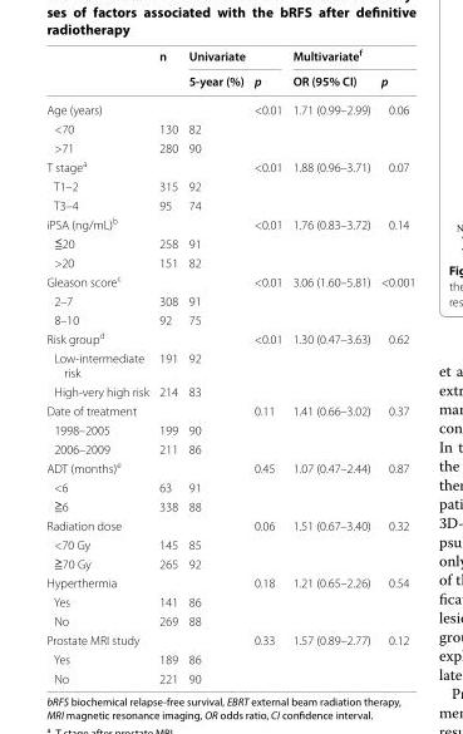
<table><thead><tr><td rowspan="2"></td><td rowspan="2">n</td><td colspan="2">Univariate</td><td colspan="2">Multivariate<sup>f</sup></td></tr><tr><td>5‑year (%)</td><td>p</td><td>OR (95% CI)</td><td>p</td></tr></thead><tbody><tr><td>Age (years)</td><td></td><td></td><td>&lt;0.01</td><td>1.71 (0.99–2.99)</td><td>0.06</td></tr><tr><td>&lt;70</td><td>130</td><td>82</td><td></td><td></td><td></td></tr><tr><td>&gt;71</td><td>280</td><td>90</td><td></td><td></td><td></td></tr><tr><td>T stage<sup>a</sup></td><td></td><td></td><td>&lt;0.01</td><td>1.88 (0.96–3.71)</td><td>0.07</td></tr><tr><td>T1–2</td><td>315</td><td>92</td><td></td><td></td><td></td></tr><tr><td>T3–4</td><td>95</td><td>74</td><td></td><td></td><td></td></tr><tr><td>iPSA (ng/mL)<sup>b</sup></td><td></td><td></td><td>&lt;0.01</td><td>1.76 (0.83–3.72)</td><td>0.14</td></tr><tr><td>≦20</td><td>258</td><td>91</td><td></td><td></td><td></td></tr><tr><td>&gt;20</td><td>151</td><td>82</td><td></td><td></td><td></td></tr><tr><td>Gleason score<sup>c</sup></td><td></td><td></td><td>&lt;0.01</td><td>3.06 (1.60–5.81)</td><td>&lt;0.001</td></tr><tr><td>2–7</td><td>308</td><td>91</td><td></td><td></td><td></td></tr><tr><td>8–10</td><td>92</td><td>75</td><td></td><td></td><td></td></tr><tr><td>Risk group<sup>d</sup></td><td></td><td></td><td>&lt;0.01</td><td>1.30 (0.47–3.63)</td><td>0.62</td></tr><tr><td>Low-intermediate risk</td><td>191</td><td>92</td><td></td><td></td><td></td></tr><tr><td>High-very high risk</td><td>214</td><td>83</td><td></td><td></td><td></td></tr><tr><td>Date of treatment</td><td></td><td></td><td>0.11</td><td>1.41 (0.66–3.02)</td><td>0.37</td></tr><tr><td>1998–2005</td><td>199</td><td>90</td><td></td><td></td><td></td></tr><tr><td>2006–2009</td><td>211</td><td>86</td><td></td><td></td><td></td></tr><tr><td>ADT (months)<sup>e</sup></td><td></td><td></td><td>0.45</td><td>1.07 (0.47–2.44)</td><td>0.87</td></tr><tr><td>&lt;6</td><td>63</td><td>91</td><td></td><td></td><td></td></tr><tr><td>≧6</td><td>338</td><td>88</td><td></td><td></td><td></td></tr><tr><td>Radiation dose</td><td></td><td></td><td>0.06</td><td>1.51 (0.67–3.40)</td><td>0.32</td></tr><tr><td>&lt;70 Gy</td><td>145</td><td>85</td><td></td><td></td><td></td></tr><tr><td>≧70 Gy</td><td>265</td><td>92</td><td></td><td></td><td></td></tr><tr><td>Hyperthermia</td><td></td><td></td><td>0.18</td><td>1.21 (0.65–2.26)</td><td>0.54</td></tr><tr><td>Yes</td><td>141</td><td>86</td><td></td><td></td><td></td></tr><tr><td>No</td><td>269</td><td>88</td><td></td><td></td><td></td></tr><tr><td>Prostate MRI study</td><td></td><td></td><td>0.33</td><td>1.57 (0.89–2.77)</td><td>0.12</td></tr><tr><td>Yes</td><td>189</td><td>86</td><td></td><td></td><td></td></tr><tr><td>No</td><td>221</td><td>90</td><td></td><td></td><td></td></tr></tbody></table>